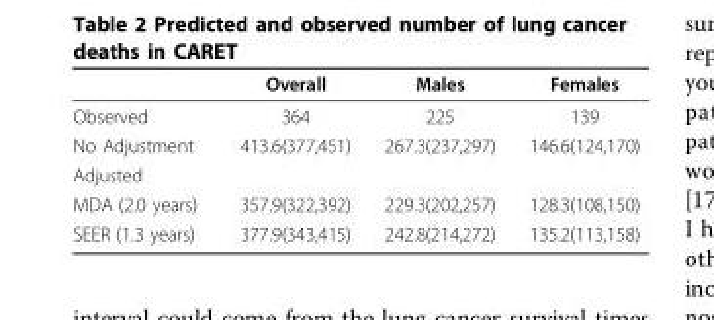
<table><thead><tr><td></td><td>Overall</td><td>Males</td><td>Females</td></tr></thead><tbody><tr><td>Observed</td><td>364</td><td>225</td><td>139</td></tr><tr><td>No Adjustment</td><td>413.6(377,451)</td><td>267.3(237,297)</td><td>146.6(124,170)</td></tr><tr><td colspan="4">Adjusted</td></tr><tr><td>MDA (2.0 years)</td><td>357.9(322,392)</td><td>229.3(202,257)</td><td>128.3(108,150)</td></tr><tr><td>SEER (1.3 years)</td><td>377.9(343,415)</td><td>242.8(214,272)</td><td>135.2(113,158)</td></tr></tbody></table>